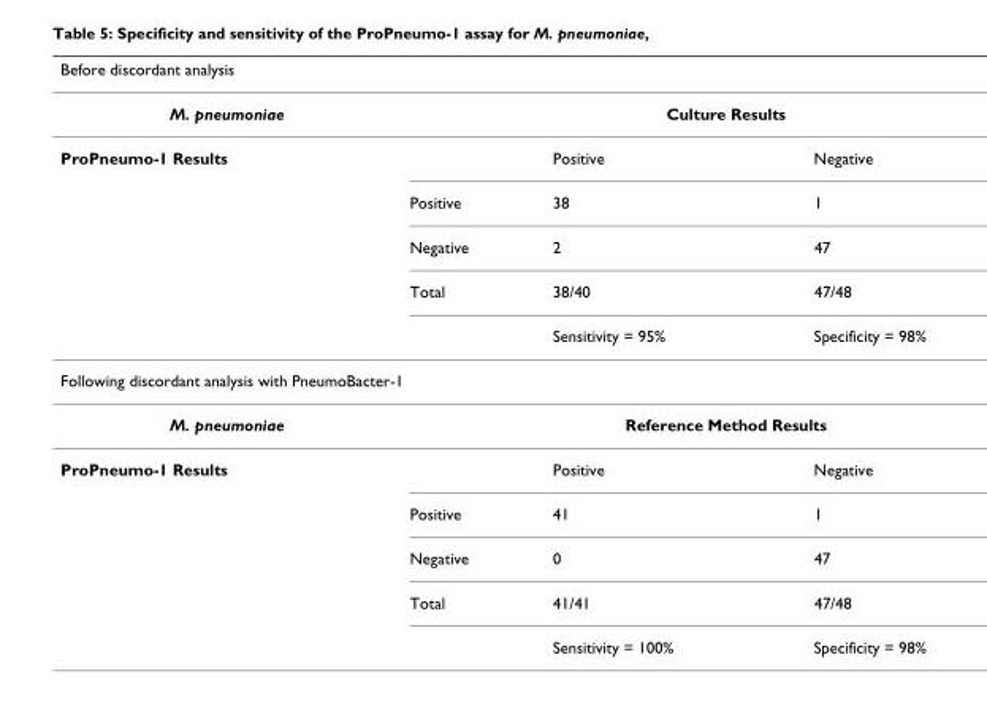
<table><thead><tr><td colspan="4">Before discordant analysis</td></tr><tr><td rowspan="2">M. pneumoniae ProPneumo-1 Results</td><td colspan="3">Culture Results</td></tr><tr><td></td><td>Positive</td><td>Negative</td></tr></thead><tbody><tr><td></td><td>Positive</td><td>38</td><td>1</td></tr><tr><td></td><td>Negative</td><td>2</td><td>47</td></tr><tr><td></td><td>Total</td><td>38/40</td><td>47/48</td></tr><tr><td></td><td></td><td>Sensitivity = 95%</td><td>Specificity = 98%</td></tr><tr><td colspan="4">Following discordant analysis with PneumoBacter-1</td></tr><tr><td>M. pneumoniae</td><td colspan="3">Reference Method Results</td></tr><tr><td rowspan="5">ProPneumo-1 Results</td><td></td><td>Positive</td><td>Negative</td></tr><tr><td>Positive</td><td>41</td><td>1</td></tr><tr><td>Negative</td><td>0</td><td>47</td></tr><tr><td>Total</td><td>41/41</td><td>47/48</td></tr><tr><td></td><td>Sensitivity = 100%</td><td>Specificity = 98%</td></tr></tbody></table>